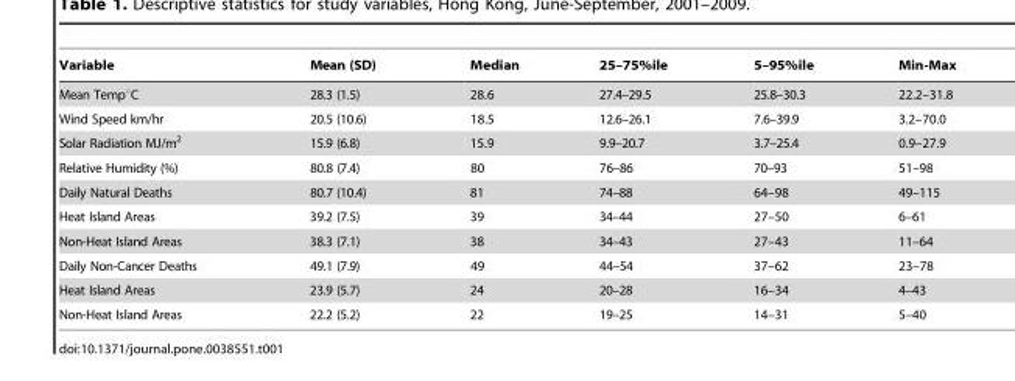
<table><thead><tr><td>Variable</td><td>Mean (SD)</td><td>Median</td><td>25–75%ile</td><td>5–95%ile</td><td>Min-Max</td></tr></thead><tbody><tr><td>Mean Temp°C</td><td>28.3 (1.5)</td><td>28.6</td><td>27.4–29.5</td><td>25.8–30.3</td><td>22.2–31.8</td></tr><tr><td>Wind Speed km/hr</td><td>20.5 (10.6)</td><td>18.5</td><td>12.6–26.1</td><td>7.6–39.9</td><td>3.2–70.0</td></tr><tr><td>Solar Radiation MJ/m<sup>2</sup></td><td>15.9 (6.8)</td><td>15.9</td><td>9.9–20.7</td><td>3.7–25.4</td><td>0.9–27.9</td></tr><tr><td>Relative Humidity (%)</td><td>80.8 (7.4)</td><td>80</td><td>76–86</td><td>70–93</td><td>51–98</td></tr><tr><td>Daily Natural Deaths</td><td>80.7 (10.4)</td><td>81</td><td>74–88</td><td>64–98</td><td>49–115</td></tr><tr><td>Heat Island Areas</td><td>39.2 (7.5)</td><td>39</td><td>34–44</td><td>27–50</td><td>6–61</td></tr><tr><td>Non-Heat Island Areas</td><td>38.3 (7.1)</td><td>38</td><td>34–43</td><td>27–43</td><td>11–64</td></tr><tr><td>Daily Non-Cancer Deaths</td><td>49.1 (7.9)</td><td>49</td><td>44–54</td><td>37–62</td><td>23–78</td></tr><tr><td>Heat Island Areas</td><td>23.9 (5.7)</td><td>24</td><td>20–28</td><td>16–34</td><td>4–43</td></tr><tr><td>Non-Heat Island Areas</td><td>22.2 (5.2)</td><td>22</td><td>19–25</td><td>14–31</td><td>5–40</td></tr></tbody></table>